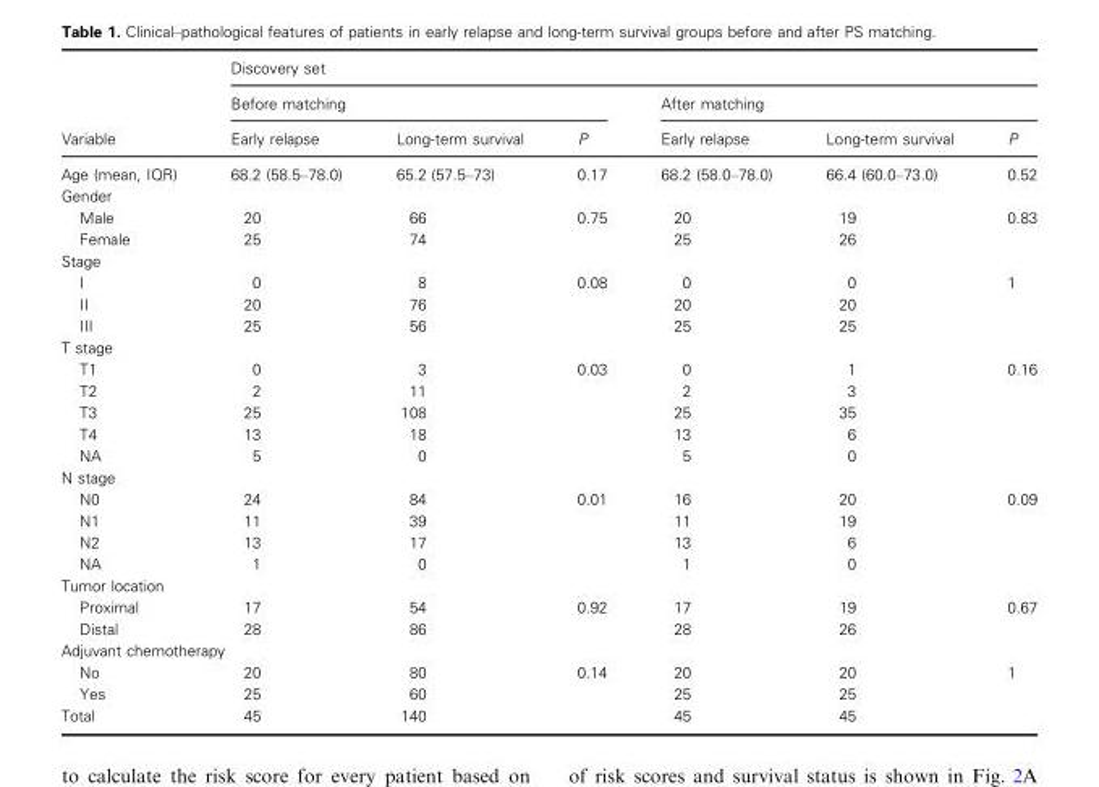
<table><thead><tr><td rowspan="3">Variable</td><td colspan="6">Discovery set</td></tr><tr><td colspan="3">Before matching</td><td colspan="3">After matching</td></tr><tr><td>Early relapse</td><td>Long-term survival</td><td>P</td><td>Early relapse</td><td>Long-term survival</td><td>P</td></tr></thead><tbody><tr><td>Age (mean, IQR)</td><td>68.2 (58.5–78.0)</td><td>65.2 (57.5–73)</td><td>0.17</td><td>68.2 (58.0–78.0)</td><td>66.4 (60.0–73.0)</td><td>0.52</td></tr><tr><td colspan="7">Gender</td></tr><tr><td>Male</td><td>20</td><td>66</td><td rowspan="2">0.75</td><td>20</td><td>19</td><td rowspan="2">0.83</td></tr><tr><td>Female</td><td>25</td><td>74</td><td>25</td><td>26</td></tr><tr><td colspan="7">Stage</td></tr><tr><td>I</td><td>0</td><td>8</td><td rowspan="3">0.08</td><td>0</td><td>0</td><td rowspan="3">1</td></tr><tr><td>II</td><td>20</td><td>76</td><td>20</td><td>20</td></tr><tr><td>III</td><td>25</td><td>56</td><td>25</td><td>25</td></tr><tr><td colspan="7">T stage</td></tr><tr><td>T1</td><td>0</td><td>3</td><td rowspan="5">0.03</td><td>0</td><td>1</td><td rowspan="5">0.16</td></tr><tr><td>T2</td><td>2</td><td>11</td><td>2</td><td>3</td></tr><tr><td>T3</td><td>25</td><td>108</td><td>25</td><td>35</td></tr><tr><td>T4</td><td>13</td><td>18</td><td>13</td><td>6</td></tr><tr><td>NA</td><td>5</td><td>0</td><td>5</td><td>0</td></tr><tr><td colspan="7">N stage</td></tr><tr><td>N0</td><td>24</td><td>84</td><td rowspan="4">0.01</td><td>16</td><td>20</td><td rowspan="4">0.09</td></tr><tr><td>N1</td><td>11</td><td>39</td><td>11</td><td>19</td></tr><tr><td>N2</td><td>13</td><td>17</td><td>13</td><td>6</td></tr><tr><td>NA</td><td>1</td><td>0</td><td>1</td><td>0</td></tr><tr><td colspan="7">Tumor location</td></tr><tr><td>Proximal</td><td>17</td><td>54</td><td rowspan="2">0.92</td><td>17</td><td>19</td><td rowspan="2">0.67</td></tr><tr><td>Distal</td><td>28</td><td>86</td><td>28</td><td>26</td></tr><tr><td colspan="7">Adjuvant chemotherapy</td></tr><tr><td>No</td><td>20</td><td>80</td><td rowspan="3">0.14</td><td>20</td><td>20</td><td rowspan="2">1</td></tr><tr><td>Yes</td><td>25</td><td>60</td><td>25</td><td>25</td></tr><tr><td>Total</td><td>45</td><td>140</td><td>45</td><td>45</td><td></td></tr></tbody></table>